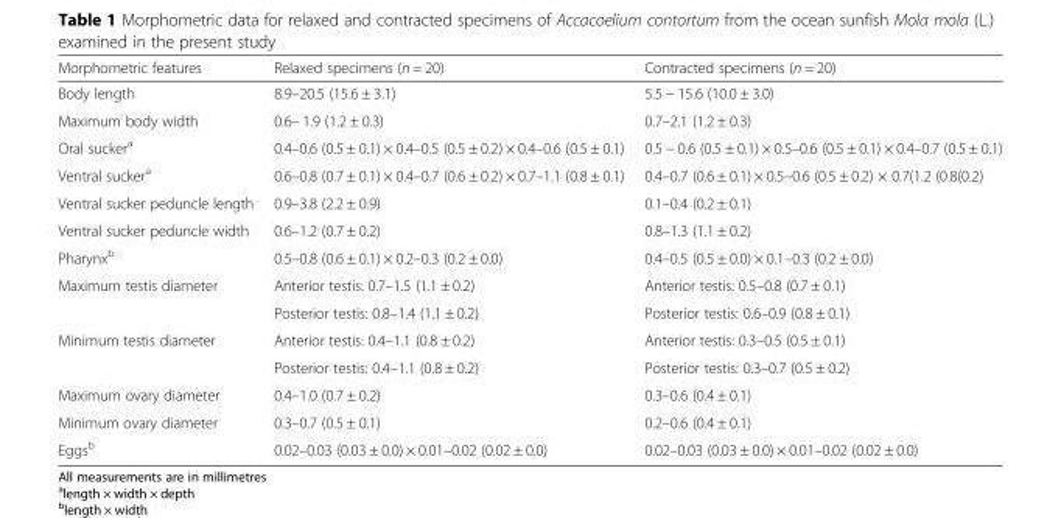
<table><thead><tr><td>Morphometric features</td><td>Relaxed specimens (n = 20)</td><td>Contracted specimens (n = 20)</td></tr></thead><tbody><tr><td>Body length</td><td>8.9–20.5 (15.6 ± 3.1)</td><td>5.5 − 15.6 (10.0 ± 3.0)</td></tr><tr><td>Maximum body width</td><td>0.6– 1.9 (1.2 ± 0.3)</td><td>0.7–2.1 (1.2 ± 0.3)</td></tr><tr><td>Oral sucker<sup>a</sup></td><td>0.4–0.6 (0.5 ± 0.1) × 0.4–0.5 (0.5 ± 0.2) × 0.4–0.6 (0.5 ± 0.1)</td><td>0.5 − 0.6 (0.5 ± 0.1) × 0.5–0.6 (0.5 ± 0.1) × 0.4–0.7 (0.5 ± 0.1)</td></tr><tr><td>Ventral sucker<sup>a</sup></td><td>0.6–0.8 (0.7 ± 0.1) × 0.4–0.7 (0.6 ± 0.2) × 0.7–1.1 (0.8 ± 0.1)</td><td>0.4–0.7 (0.6 ± 0.1) × 0.5–0.6 (0.5 ± 0.2) × 0.7(1.2 (0.8(0.2)</td></tr><tr><td>Ventral sucker peduncle length</td><td>0.9–3.8 (2.2 ± 0.9)</td><td>0.1–0.4 (0.2 ± 0.1)</td></tr><tr><td>Ventral sucker peduncle width</td><td>0.6–1.2 (0.7 ± 0.2)</td><td>0.8–1.3 (1.1 ± 0.2)</td></tr><tr><td>Pharynx<sup>b</sup></td><td>0.5–0.8 (0.6 ± 0.1) × 0.2–0.3 (0.2 ± 0.0)</td><td>0.4–0.5 (0.5 ± 0.0) × 0.1–0.3 (0.2 ± 0.0)</td></tr><tr><td rowspan="2">Maximum testis diameter</td><td>Anterior testis: 0.7–1.5 (1.1 ± 0.2)</td><td>Anterior testis: 0.5–0.8 (0.7 ± 0.1)</td></tr><tr><td>Posterior testis: 0.8–1.4 (1.1 ± 0.2)</td><td>Posterior testis: 0.6–0.9 (0.8 ± 0.1)</td></tr><tr><td rowspan="2">Minimum testis diameter</td><td>Anterior testis: 0.4–1.1 (0.8 ± 0.2)</td><td>Anterior testis: 0.3–0.5 (0.5 ± 0.1)</td></tr><tr><td>Posterior testis: 0.4–1.1 (0.8 ± 0.2)</td><td>Posterior testis: 0.3–0.7 (0.5 ± 0.2)</td></tr><tr><td>Maximum ovary diameter</td><td>0.4–1.0 (0.7 ± 0.2)</td><td>0.3–0.6 (0.4 ± 0.1)</td></tr><tr><td>Minimum ovary diameter</td><td>0.3–0.7 (0.5 ± 0.1)</td><td>0.2–0.6 (0.4 ± 0.1)</td></tr><tr><td>Eggs<sup>b</sup></td><td>0.02–0.03 (0.03 ± 0.0) × 0.01–0.02 (0.02 ± 0.0)</td><td>0.02–0.03 (0.03 ± 0.0) × 0.01–0.02 (0.02 ± 0.0)</td></tr></tbody></table>